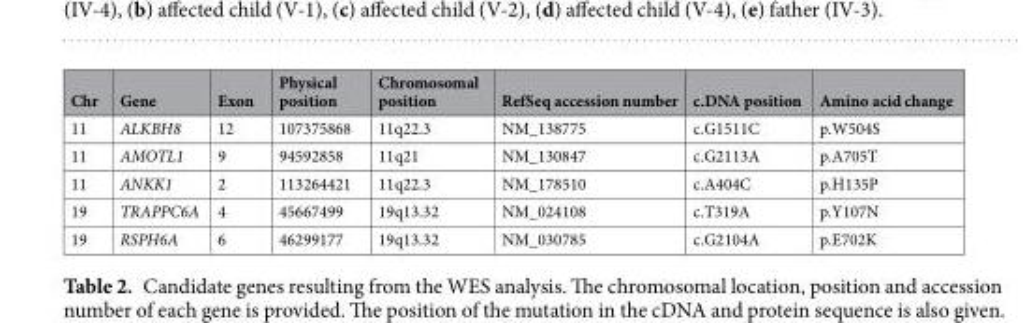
<table><thead><tr><td>Chr</td><td>Gene</td><td>Exon</td><td>Physical position</td><td>Chromosomal position</td><td>RefSeq accession number</td><td>c.DNA position</td><td>Amino acid change</td></tr></thead><tbody><tr><td>11</td><td>ALKBH8</td><td>12</td><td>107375868</td><td>11q22.3</td><td>NM_138775</td><td>c.G1511C</td><td>p.W504S</td></tr><tr><td>11</td><td>AMOTL1</td><td>9</td><td>94592858</td><td>11q21</td><td>NM_130847</td><td>c.G2113A</td><td>p.A705T</td></tr><tr><td>11</td><td>ANKK1</td><td>2</td><td>113264421</td><td>11q22.3</td><td>NM_178510</td><td>c.A404C</td><td>p.H135P</td></tr><tr><td>19</td><td>TRAPPC6A</td><td>4</td><td>45667499</td><td>19q13.32</td><td>NM_024108</td><td>c.T319A</td><td>p.Y107N</td></tr><tr><td>19</td><td>RSPH6A</td><td>6</td><td>46299177</td><td>19q13.32</td><td>NM_030785</td><td>c.G2104A</td><td>p.E702K</td></tr></tbody></table>